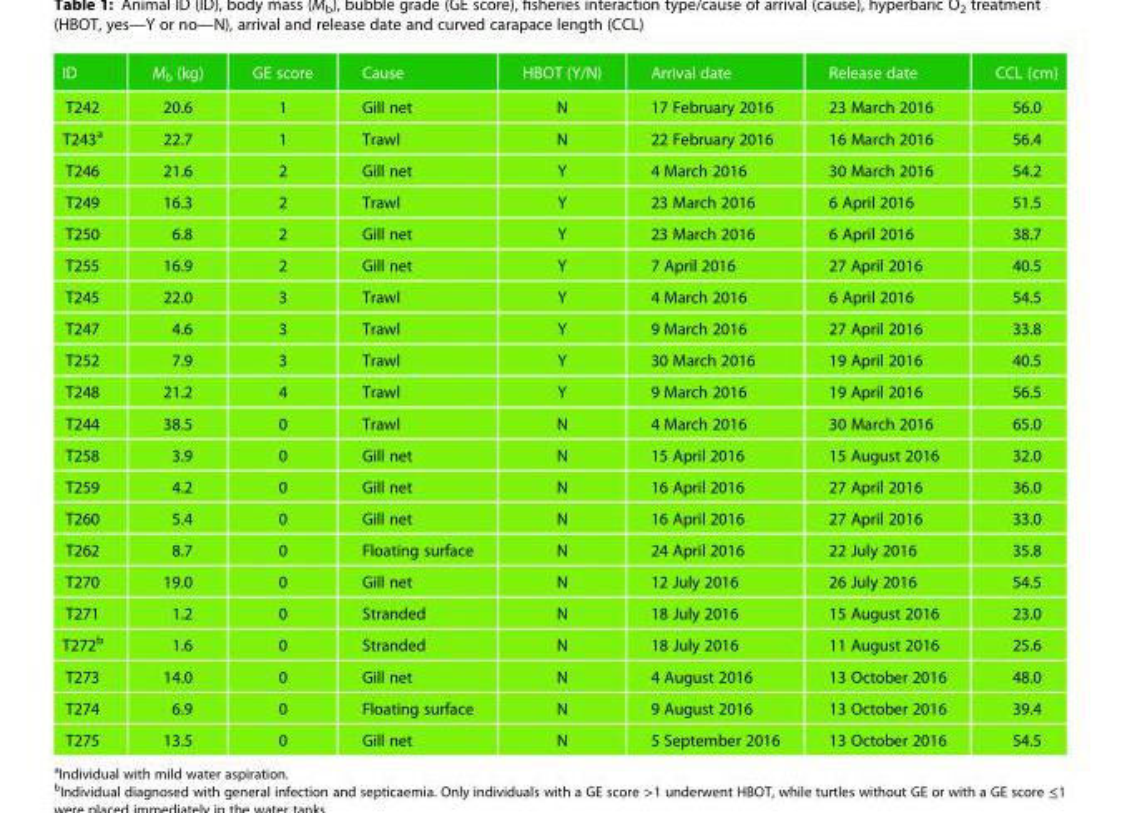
<table><thead><tr><td>ID</td><td>M<sub>b</sub> (kg)</td><td>GE score</td><td>Cause</td><td>HBOT (Y/N)</td><td>Arrival date</td><td>Release date</td><td>CCL (cm)</td></tr></thead><tbody><tr><td>T242</td><td>20.6</td><td>1</td><td>Gill net</td><td>N</td><td>17 February 2016</td><td>23 March 2016</td><td>56.0</td></tr><tr><td>T243<sup>a</sup></td><td>22.7</td><td>1</td><td>Trawl</td><td>N</td><td>22 February 2016</td><td>16 March 2016</td><td>56.4</td></tr><tr><td>T246</td><td>21.6</td><td>2</td><td>Gill net</td><td>Y</td><td>4 March 2016</td><td>30 March 2016</td><td>54.2</td></tr><tr><td>T249</td><td>16.3</td><td>2</td><td>Trawl</td><td>Y</td><td>23 March 2016</td><td>6 April 2016</td><td>51.5</td></tr><tr><td>T250</td><td>6.8</td><td>2</td><td>Gill net</td><td>Y</td><td>23 March 2016</td><td>6 April 2016</td><td>38.7</td></tr><tr><td>T255</td><td>16.9</td><td>2</td><td>Gill net</td><td>Y</td><td>7 April 2016</td><td>27 April 2016</td><td>40.5</td></tr><tr><td>T245</td><td>22.0</td><td>3</td><td>Trawl</td><td>Y</td><td>4 March 2016</td><td>6 April 2016</td><td>54.5</td></tr><tr><td>T247</td><td>4.6</td><td>3</td><td>Trawl</td><td>Y</td><td>9 March 2016</td><td>27 April 2016</td><td>33.8</td></tr><tr><td>T252</td><td>7.9</td><td>3</td><td>Trawl</td><td>Y</td><td>30 March 2016</td><td>19 April 2016</td><td>40.5</td></tr><tr><td>T248</td><td>21.2</td><td>4</td><td>Trawl</td><td>Y</td><td>9 March 2016</td><td>19 April 2016</td><td>56.5</td></tr><tr><td>T244</td><td>38.5</td><td>0</td><td>Trawl</td><td>N</td><td>4 March 2016</td><td>30 March 2016</td><td>65.0</td></tr><tr><td>T258</td><td>3.9</td><td>0</td><td>Gill net</td><td>N</td><td>15 April 2016</td><td>15 August 2016</td><td>32.0</td></tr><tr><td>T259</td><td>4.2</td><td>0</td><td>Gill net</td><td>N</td><td>16 April 2016</td><td>27 April 2016</td><td>36.0</td></tr><tr><td>T260</td><td>5.4</td><td>0</td><td>Gill net</td><td>N</td><td>16 April 2016</td><td>27 April 2016</td><td>33.0</td></tr><tr><td>T262</td><td>8.7</td><td>0</td><td>Floating surface</td><td>N</td><td>24 April 2016</td><td>22 July 2016</td><td>35.8</td></tr><tr><td>T270</td><td>19.0</td><td>0</td><td>Gill net</td><td>N</td><td>12 July 2016</td><td>26 July 2016</td><td>54.5</td></tr><tr><td>T271</td><td>1.2</td><td>0</td><td>Stranded</td><td>N</td><td>18 July 2016</td><td>15 August 2016</td><td>23.0</td></tr><tr><td>T272<sup>b</sup></td><td>1.6</td><td>0</td><td>Stranded</td><td>N</td><td>18 July 2016</td><td>11 August 2016</td><td>25.6</td></tr><tr><td>T273</td><td>14.0</td><td>0</td><td>Gill net</td><td>N</td><td>4 August 2016</td><td>13 October 2016</td><td>48.0</td></tr><tr><td>T274</td><td>6.9</td><td>0</td><td>Floating surface</td><td>N</td><td>9 August 2016</td><td>13 October 2016</td><td>39.4</td></tr><tr><td>T275</td><td>13.5</td><td>0</td><td>Gill net</td><td>N</td><td>5 September 2016</td><td>13 October 2016</td><td>54.5</td></tr></tbody></table>